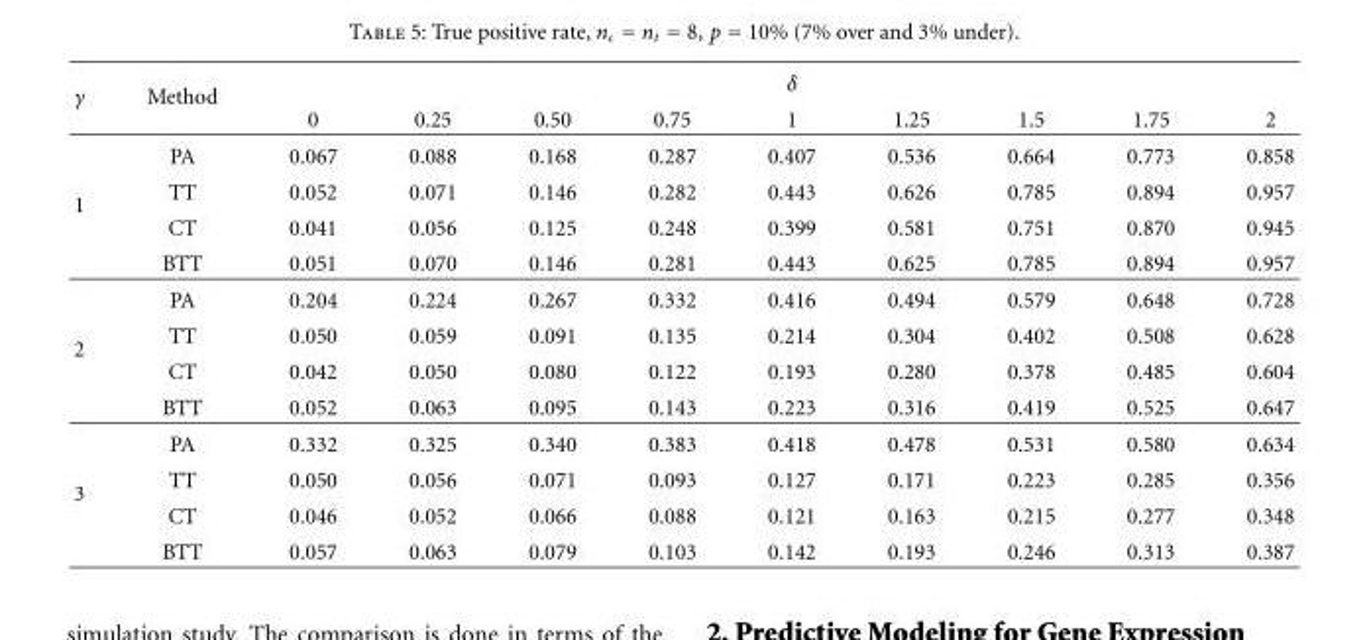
<table><thead><tr><td rowspan="2">γ</td><td rowspan="2">Method</td><td colspan="9">δ</td></tr><tr><td>0</td><td>0.25</td><td>0.50</td><td>0.75</td><td>1</td><td>1.25</td><td>1.5</td><td>1.75</td><td>2</td></tr></thead><tbody><tr><td rowspan="4">1</td><td>PA</td><td>0.067</td><td>0.088</td><td>0.168</td><td>0.287</td><td>0.407</td><td>0.536</td><td>0.664</td><td>0.773</td><td>0.858</td></tr><tr><td>TT</td><td>0.052</td><td>0.071</td><td>0.146</td><td>0.282</td><td>0.443</td><td>0.626</td><td>0.785</td><td>0.894</td><td>0.957</td></tr><tr><td>CT</td><td>0.041</td><td>0.056</td><td>0.125</td><td>0.248</td><td>0.399</td><td>0.581</td><td>0.751</td><td>0.870</td><td>0.945</td></tr><tr><td>BTT</td><td>0.051</td><td>0.070</td><td>0.146</td><td>0.281</td><td>0.443</td><td>0.625</td><td>0.785</td><td>0.894</td><td>0.957</td></tr><tr><td rowspan="4">2</td><td>PA</td><td>0.204</td><td>0.224</td><td>0.267</td><td>0.332</td><td>0.416</td><td>0.494</td><td>0.579</td><td>0.648</td><td>0.728</td></tr><tr><td>TT</td><td>0.050</td><td>0.059</td><td>0.091</td><td>0.135</td><td>0.214</td><td>0.304</td><td>0.402</td><td>0.508</td><td>0.628</td></tr><tr><td>CT</td><td>0.042</td><td>0.050</td><td>0.080</td><td>0.122</td><td>0.193</td><td>0.280</td><td>0.378</td><td>0.485</td><td>0.604</td></tr><tr><td>BTT</td><td>0.052</td><td>0.063</td><td>0.095</td><td>0.143</td><td>0.223</td><td>0.316</td><td>0.419</td><td>0.525</td><td>0.647</td></tr><tr><td rowspan="4">3</td><td>PA</td><td>0.332</td><td>0.325</td><td>0.340</td><td>0.383</td><td>0.418</td><td>0.478</td><td>0.531</td><td>0.580</td><td>0.634</td></tr><tr><td>TT</td><td>0.050</td><td>0.056</td><td>0.071</td><td>0.093</td><td>0.127</td><td>0.171</td><td>0.223</td><td>0.285</td><td>0.356</td></tr><tr><td>CT</td><td>0.046</td><td>0.052</td><td>0.066</td><td>0.088</td><td>0.121</td><td>0.163</td><td>0.215</td><td>0.277</td><td>0.348</td></tr><tr><td>BTT</td><td>0.057</td><td>0.063</td><td>0.079</td><td>0.103</td><td>0.142</td><td>0.193</td><td>0.246</td><td>0.313</td><td>0.387</td></tr></tbody></table>